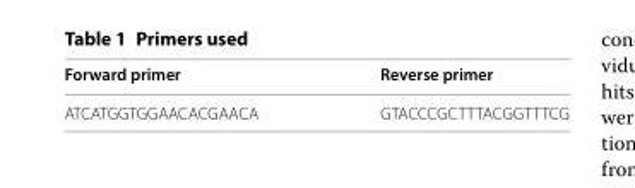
<table><thead><tr><td>Forward primer</td><td>Reverse primer</td></tr></thead><tbody><tr><td>ATCATGGTGGAACACGAACA</td><td>GTACCCGCTTTACGGTTTCG</td></tr></tbody></table>